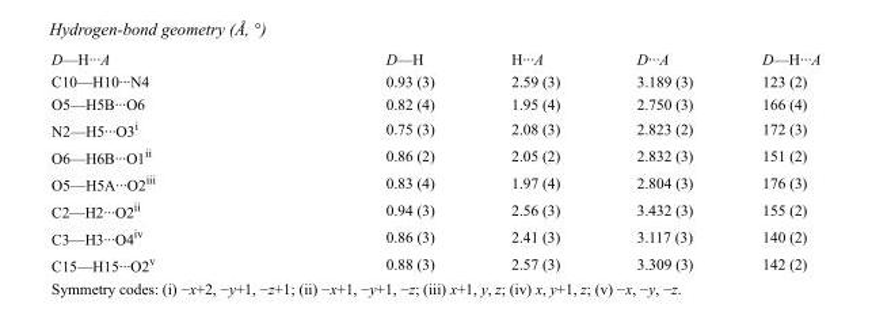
<table><tbody><tr><td>D—H···A</td><td>D—H</td><td>H···A</td><td>D···A</td><td>D—H···A</td></tr><tr><td>C10—H10···N4</td><td>0.93 (3)</td><td>2.59 (3)</td><td>3.189 (3)</td><td>123 (2)</td></tr><tr><td>O5—H5B···O6</td><td>0.82 (4)</td><td>1.95 (4)</td><td>2.750 (3)</td><td>166 (4)</td></tr><tr><td>N2—H5···O3<sup>i</sup></td><td>0.75 (3)</td><td>2.08 (3)</td><td>2.823 (2)</td><td>172 (3)</td></tr><tr><td>O6—H6B···O1<sup>ii</sup></td><td>0.86 (2)</td><td>2.05 (2)</td><td>2.832 (3)</td><td>151 (2)</td></tr><tr><td>O5—H5A···O2<sup>iii</sup></td><td>0.83 (4)</td><td>1.97 (4)</td><td>2.804 (3)</td><td>176 (3)</td></tr><tr><td>C2—H2···O2<sup>ii</sup></td><td>0.94 (3)</td><td>2.56 (3)</td><td>3.432 (3)</td><td>155 (2)</td></tr><tr><td>C3—H3···O4<sup>iv</sup></td><td>0.86 (3)</td><td>2.41 (3)</td><td>3.117 (3)</td><td>140 (2)</td></tr><tr><td>C15—H15···O2<sup>v</sup></td><td>0.88 (3)</td><td>2.57 (3)</td><td>3.309 (3)</td><td>142 (2)</td></tr></tbody></table>